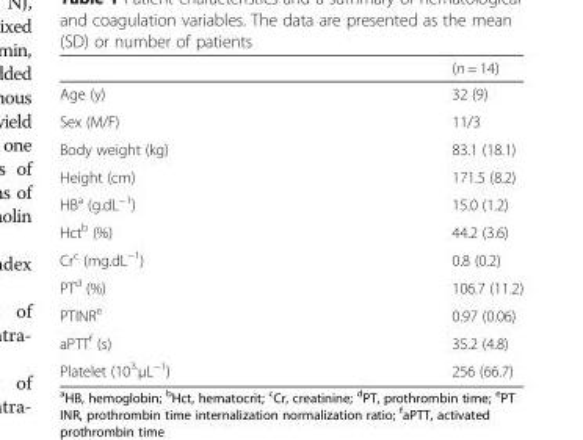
<table><thead><tr><td></td><td>(n = 14)</td></tr></thead><tbody><tr><td>Age (y)</td><td>32 (9)</td></tr><tr><td>Sex (M/F)</td><td>11/3</td></tr><tr><td>Body weight (kg)</td><td>83.1 (18.1)</td></tr><tr><td>Height (cm)</td><td>171.5 (8.2)</td></tr><tr><td>HB<sup>a</sup> (g.dL<sup>−1</sup>)</td><td>15.0 (1.2)</td></tr><tr><td>Hct<sup>b</sup> (%)</td><td>44.2 (3.6)</td></tr><tr><td>Cr<sup>c</sup> (mg.dL<sup>−1</sup>)</td><td>0.8 (0.2)</td></tr><tr><td>PT<sup>d</sup> (%)</td><td>106.7 (11.2)</td></tr><tr><td>PTINR<sup>e</sup></td><td>0.97 (0.06)</td></tr><tr><td>aPTT<sup>f</sup> (s)</td><td>35.2 (4.8)</td></tr><tr><td>Platelet (10<sup>3.</sup>μL<sup>−1</sup>)</td><td>256 (66.7)</td></tr></tbody></table>